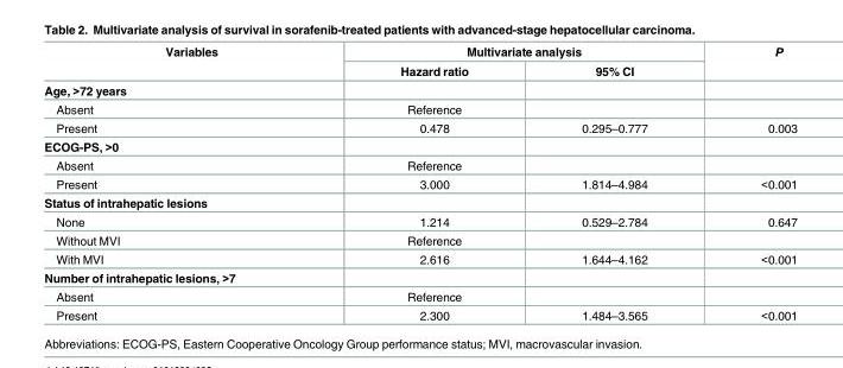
<table><thead><tr><td rowspan="2">Variables</td><td colspan="2">Multivariate analysis</td><td rowspan="2">P</td></tr><tr><td>Hazard ratio</td><td>95% CI</td></tr></thead><tbody><tr><td colspan="4">Age, &gt;72 years</td></tr><tr><td>Absent</td><td>Reference</td><td></td><td></td></tr><tr><td>Present</td><td>0.478</td><td>0.295–0.777</td><td>0.003</td></tr><tr><td colspan="4">ECOG-PS, &gt;0</td></tr><tr><td>Absent</td><td>Reference</td><td></td><td></td></tr><tr><td>Present</td><td>3.000</td><td>1.814–4.984</td><td>&lt;0.001</td></tr><tr><td colspan="4">Status of intrahepatic lesions</td></tr><tr><td>None</td><td>1.214</td><td>0.529–2.784</td><td>0.647</td></tr><tr><td>Without MVI</td><td>Reference</td><td></td><td></td></tr><tr><td>With MVI</td><td>2.616</td><td>1.644–4.162</td><td>&lt;0.001</td></tr><tr><td colspan="4">Number of intrahepatic lesions, &gt;7</td></tr><tr><td>Absent</td><td>Reference</td><td></td><td></td></tr><tr><td>Present</td><td>2.300</td><td>1.484–3.565</td><td>&lt;0.001</td></tr></tbody></table>